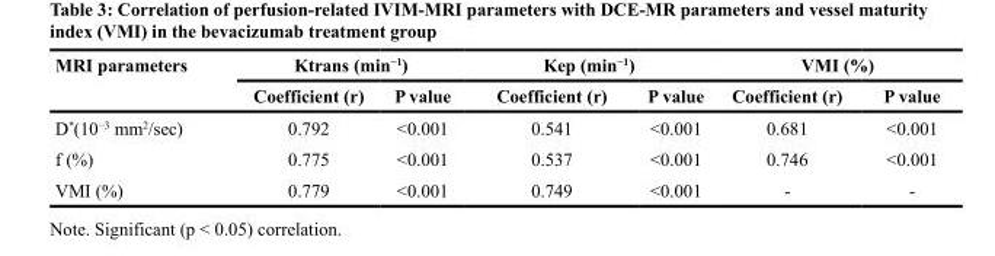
<table><thead><tr><td rowspan="2">MRI parameters</td><td colspan="2">Ktrans (min<sup>−1</sup>)</td><td colspan="2">Kep (min<sup>−1</sup>)</td><td colspan="2">VMI (%)</td></tr><tr><td>Coefficient (r)</td><td>P value</td><td>Coefficient (r)</td><td>P value</td><td>Coefficient (r)</td><td>P value</td></tr></thead><tbody><tr><td>D*(10<sup>−3</sup> mm<sup>2</sup>/sec)</td><td>0.792</td><td>&lt;0.001</td><td>0.541</td><td>&lt;0.001</td><td>0.681</td><td>&lt;0.001</td></tr><tr><td>f (%)</td><td>0.775</td><td>&lt;0.001</td><td>0.537</td><td>&lt;0.001</td><td>0.746</td><td>&lt;0.001</td></tr><tr><td>VMI (%)</td><td>0.779</td><td>&lt;0.001</td><td>0.749</td><td>&lt;0.001</td><td>-</td><td>-</td></tr></tbody></table>